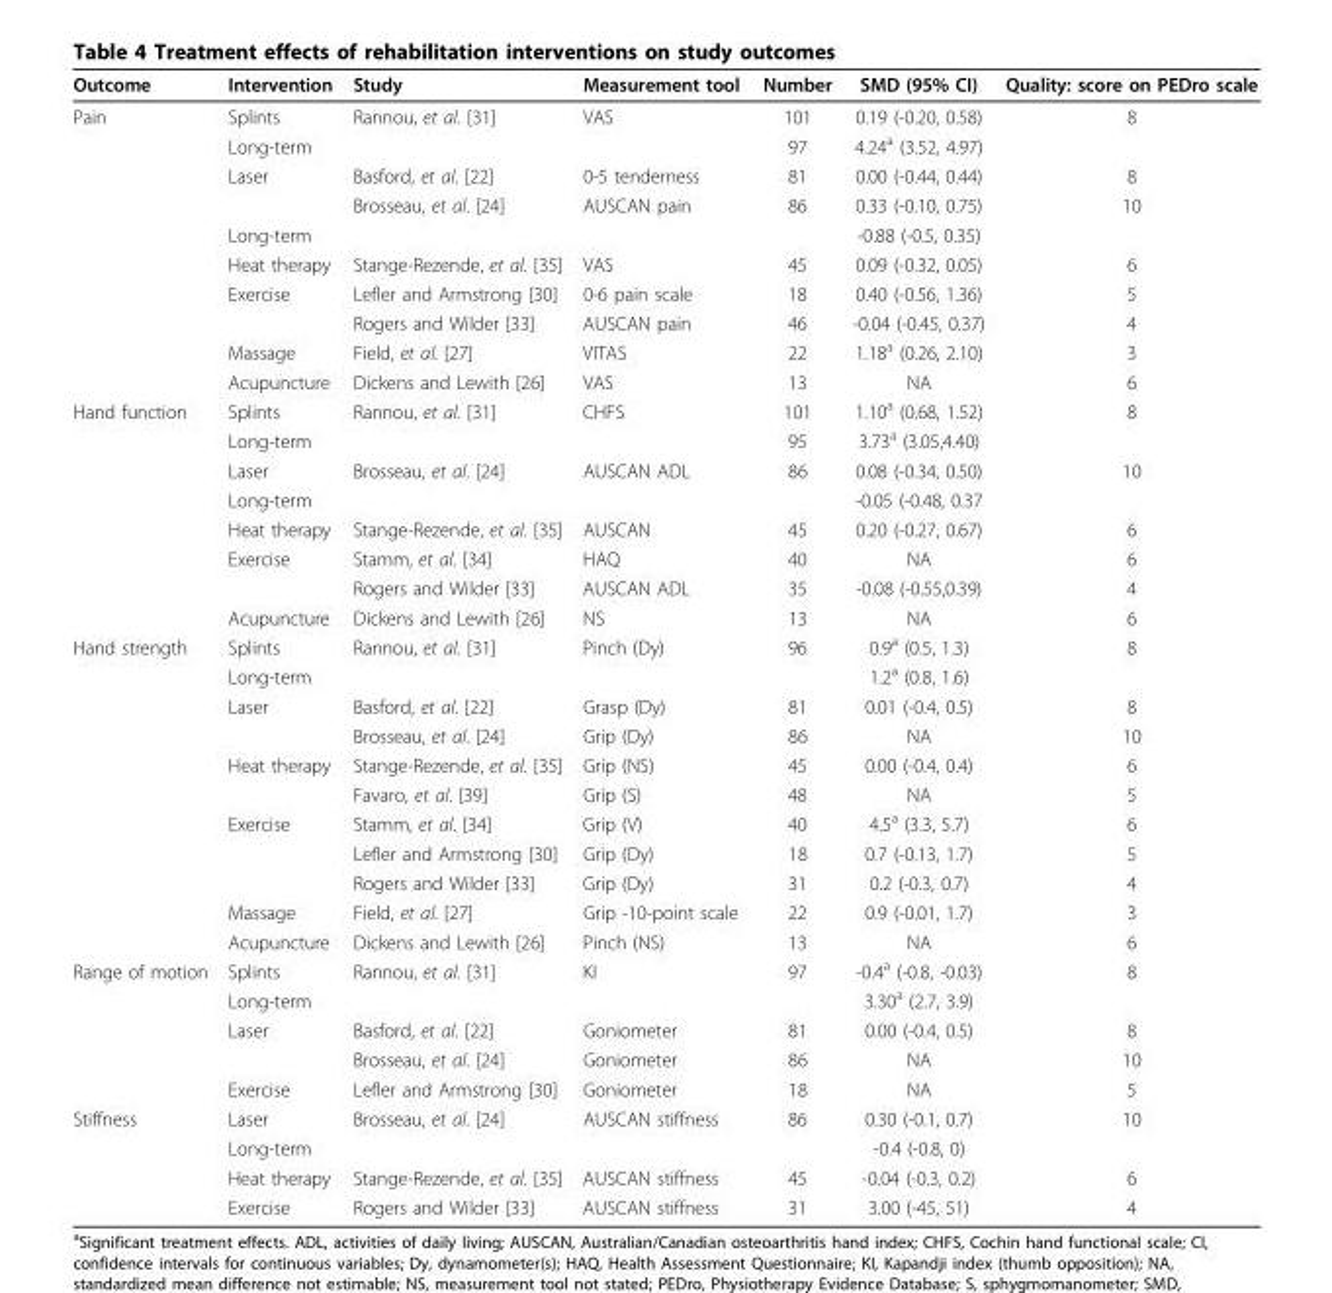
<table><thead><tr><td>Outcome</td><td>Intervention</td><td>Study</td><td>Measurement tool</td><td>Number</td><td>SMD (95% CI)</td><td>Quality: score on PEDro scale</td></tr></thead><tbody><tr><td rowspan="10">Pain</td><td>Splints</td><td>Rannou, et al. [31]</td><td>VAS</td><td>101</td><td>0.19 (-0.20, 0.58)</td><td>8</td></tr><tr><td>Long-term</td><td></td><td></td><td>97</td><td>4.24<sup>a</sup> (3.52, 4.97)</td><td></td></tr><tr><td>Laser</td><td>Basford, et al. [22]</td><td>0-5 tenderness</td><td>81</td><td>0.00 (-0.44, 0.44)</td><td>8</td></tr><tr><td></td><td>Brosseau, et al. [24]</td><td>AUSCAN pain</td><td>86</td><td>0.33 (-0.10, 0.75)</td><td>10</td></tr><tr><td>Long-term</td><td></td><td></td><td></td><td>-0.88 (-0.5, 0.35)</td><td></td></tr><tr><td>Heat therapy</td><td>Stange-Rezende, et al. [35]</td><td>VAS</td><td>45</td><td>0.09 (-0.32, 0.05)</td><td>6</td></tr><tr><td>Exercise</td><td>Lefler and Armstrong [30]</td><td>0-6 pain scale</td><td>18</td><td>0.40 (-0.56, 1.36)</td><td>5</td></tr><tr><td></td><td>Rogers and Wilder [33]</td><td>AUSCAN pain</td><td>46</td><td>-0.04 (-0.45, 0.37)</td><td>4</td></tr><tr><td>Massage</td><td>Field, et al. [27]</td><td>VITAS</td><td>22</td><td>1.18<sup>a</sup> (0.26, 2.10)</td><td>3</td></tr><tr><td>Acupuncture</td><td>Dickens and Lewith [26]</td><td>VAS</td><td>13</td><td>NA</td><td>6</td></tr><tr><td rowspan="8">Hand function</td><td>Splints</td><td>Rannou, et al. [31]</td><td>CHFS</td><td>101</td><td>1.10<sup>a</sup> (0.68, 1.52)</td><td>8</td></tr><tr><td>Long-term</td><td></td><td></td><td>95</td><td>3.73<sup>a</sup> (3.05,4.40)</td><td></td></tr><tr><td>Laser</td><td>Brosseau, et al. [24]</td><td>AUSCAN ADL</td><td>86</td><td>0.08 (-0.34, 0.50)</td><td>10</td></tr><tr><td>Long-term</td><td></td><td></td><td></td><td>-0.05 (-0.48, 0.37</td><td></td></tr><tr><td>Heat therapy</td><td>Stange-Rezende, et al. [35]</td><td>AUSCAN</td><td>45</td><td>0.20 (-0.27, 0.67)</td><td>6</td></tr><tr><td>Exercise</td><td>Stamm, et al. [34]</td><td>HAQ</td><td>40</td><td>NA</td><td>6</td></tr><tr><td></td><td>Rogers and Wilder [33]</td><td>AUSCAN ADL</td><td>35</td><td>-0.08 (-0.55,0.39)</td><td>4</td></tr><tr><td>Acupuncture</td><td>Dickens and Lewith [26]</td><td>NS</td><td>13</td><td>NA</td><td>6</td></tr><tr><td rowspan="11">Hand strength</td><td>Splints</td><td>Rannou, et al. [31]</td><td>Pinch (Dy)</td><td>96</td><td>0.9<sup>a</sup> (0.5, 1.3)</td><td>8</td></tr><tr><td>Long-term</td><td></td><td></td><td></td><td>1.2<sup>a</sup> (0.8, 1.6)</td><td></td></tr><tr><td>Laser</td><td>Basford, et al. [22]</td><td>Grasp (Dy)</td><td>81</td><td>0.01 (-0.4, 0.5)</td><td>8</td></tr><tr><td></td><td>Brosseau, et al. [24]</td><td>Grip (Dy)</td><td>86</td><td>NA</td><td>10</td></tr><tr><td>Heat therapy</td><td>Stange-Rezende, et al. [35]</td><td>Grip (NS)</td><td>45</td><td>0.00 (-0.4, 0.4)</td><td>6</td></tr><tr><td></td><td>Favaro, et al. [39]</td><td>Grip (S)</td><td>48</td><td>NA</td><td>5</td></tr><tr><td>Exercise</td><td>Stamm, et al. [34]</td><td>Grip (V)</td><td>40</td><td>4.5<sup>a</sup> (3.3, 5.7)</td><td>6</td></tr><tr><td></td><td>Lefler and Armstrong [30]</td><td>Grip (Dy)</td><td>18</td><td>0.7 (-0.13, 1.7)</td><td>5</td></tr><tr><td></td><td>Rogers and Wilder [33]</td><td>Grip (Dy)</td><td>31</td><td>0.2 (-0.3, 0.7)</td><td>4</td></tr><tr><td>Massage</td><td>Field, et al. [27]</td><td>Grip -10-point scale</td><td>22</td><td>0.9 (-0.01, 1.7)</td><td>3</td></tr><tr><td>Acupuncture</td><td>Dickens and Lewith [26]</td><td>Pinch (NS)</td><td>13</td><td>NA</td><td>6</td></tr><tr><td rowspan="5">Range of motion</td><td>Splints</td><td>Rannou, et al. [31]</td><td>KI</td><td>97</td><td>-0.4<sup>a</sup> (-0.8, -0.03)</td><td>8</td></tr><tr><td>Long-term</td><td></td><td></td><td></td><td>3.30<sup>a</sup> (2.7, 3.9)</td><td></td></tr><tr><td>Laser</td><td>Basford, et al. [22]</td><td>Goniometer</td><td>81</td><td>0.00 (-0.4, 0.5)</td><td>8</td></tr><tr><td></td><td>Brosseau, et al. [24]</td><td>Goniometer</td><td>86</td><td>NA</td><td>10</td></tr><tr><td>Exercise</td><td>Lefler and Armstrong [30]</td><td>Goniometer</td><td>18</td><td>NA</td><td>5</td></tr><tr><td rowspan="4">Stiffness</td><td>Laser</td><td>Brosseau, et al. [24]</td><td>AUSCAN stiffness</td><td>86</td><td>0.30 (-0.1, 0.7)</td><td>10</td></tr><tr><td>Long-term</td><td></td><td></td><td></td><td>-0.4 (-0.8, 0)</td><td></td></tr><tr><td>Heat therapy</td><td>Stange-Rezende, et al. [35]</td><td>AUSCAN stiffness</td><td>45</td><td>-0.04 (-0.3, 0.2)</td><td>6</td></tr><tr><td>Exercise</td><td>Rogers and Wilder [33]</td><td>AUSCAN stiffness</td><td>31</td><td>3.00 (-45, 51)</td><td>4</td></tr></tbody></table>